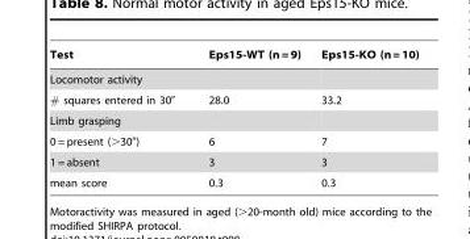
<table><thead><tr><td>Test</td><td>Eps15-WT (n = 9)</td><td>Eps15-KO (n = 10)</td></tr></thead><tbody><tr><td colspan="3">Locomotor activity</td></tr><tr><td># squares entered in 30″</td><td>28.0</td><td>33.2</td></tr><tr><td colspan="3">Limb grasping</td></tr><tr><td>0 = present (&gt;30″)</td><td>6</td><td>7</td></tr><tr><td>1 = absent</td><td>3</td><td>3</td></tr><tr><td>mean score</td><td>0.3</td><td>0.3</td></tr></tbody></table>